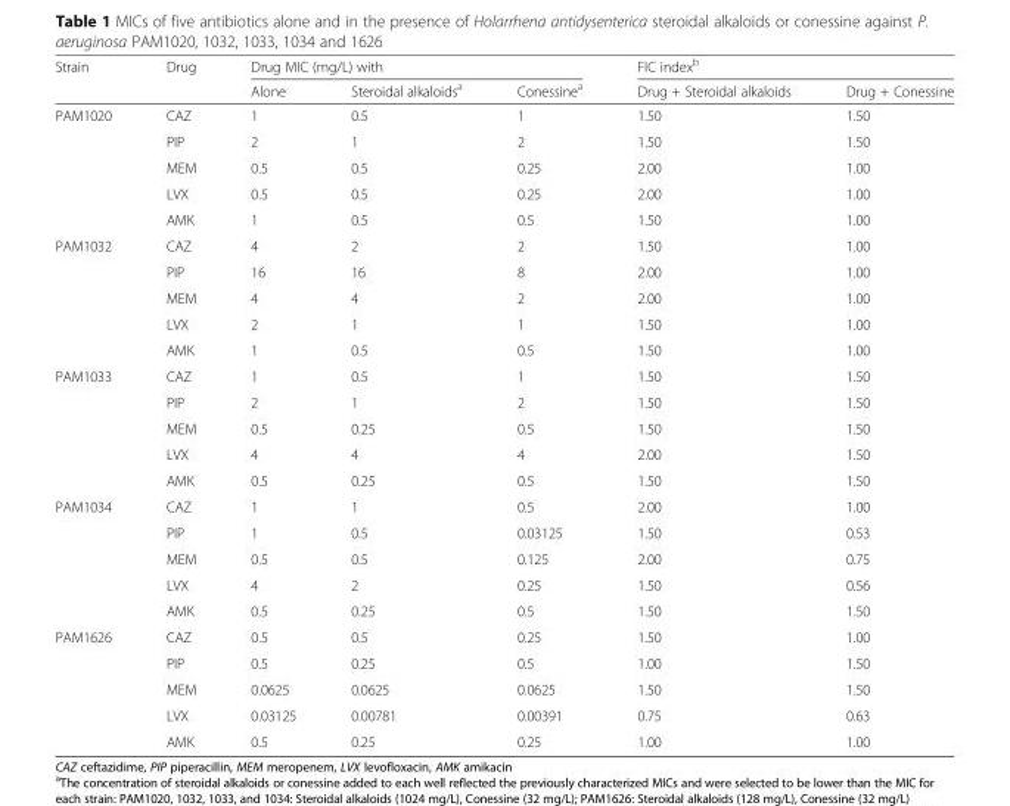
<table><thead><tr><td rowspan="2">Strain</td><td rowspan="2">Drug</td><td colspan="3">Drug MIC (mg/L) with</td><td colspan="2">FIC index<sup>b</sup></td></tr><tr><td>Alone</td><td>Steroidal alkaloids<sup>a</sup></td><td>Conessine<sup>a</sup></td><td>Drug + Steroidal alkaloids</td><td>Drug + Conessine</td></tr></thead><tbody><tr><td rowspan="5">PAM1020</td><td>CAZ</td><td>1</td><td>0.5</td><td>1</td><td>1.50</td><td>1.50</td></tr><tr><td>PIP</td><td>2</td><td>1</td><td>2</td><td>1.50</td><td>1.50</td></tr><tr><td>MEM</td><td>0.5</td><td>0.5</td><td>0.25</td><td>2.00</td><td>1.00</td></tr><tr><td>LVX</td><td>0.5</td><td>0.5</td><td>0.25</td><td>2.00</td><td>1.00</td></tr><tr><td>AMK</td><td>1</td><td>0.5</td><td>0.5</td><td>1.50</td><td>1.00</td></tr><tr><td rowspan="5">PAM1032</td><td>CAZ</td><td>4</td><td>2</td><td>2</td><td>1.50</td><td>1.00</td></tr><tr><td>PIP</td><td>16</td><td>16</td><td>8</td><td>2.00</td><td>1.00</td></tr><tr><td>MEM</td><td>4</td><td>4</td><td>2</td><td>2.00</td><td>1.00</td></tr><tr><td>LVX</td><td>2</td><td>1</td><td>1</td><td>1.50</td><td>1.00</td></tr><tr><td>AMK</td><td>1</td><td>0.5</td><td>0.5</td><td>1.50</td><td>1.00</td></tr><tr><td rowspan="5">PAM1033</td><td>CAZ</td><td>1</td><td>0.5</td><td>1</td><td>1.50</td><td>1.50</td></tr><tr><td>PIP</td><td>2</td><td>1</td><td>2</td><td>1.50</td><td>1.50</td></tr><tr><td>MEM</td><td>0.5</td><td>0.25</td><td>0.5</td><td>1.50</td><td>1.50</td></tr><tr><td>LVX</td><td>4</td><td>4</td><td>4</td><td>2.00</td><td>1.50</td></tr><tr><td>AMK</td><td>0.5</td><td>0.25</td><td>0.5</td><td>1.50</td><td>1.50</td></tr><tr><td rowspan="5">PAM1034</td><td>CAZ</td><td>1</td><td>1</td><td>0.5</td><td>2.00</td><td>1.00</td></tr><tr><td>PIP</td><td>1</td><td>0.5</td><td>0.03125</td><td>1.50</td><td>0.53</td></tr><tr><td>MEM</td><td>0.5</td><td>0.5</td><td>0.125</td><td>2.00</td><td>0.75</td></tr><tr><td>LVX</td><td>4</td><td>2</td><td>0.25</td><td>1.50</td><td>0.56</td></tr><tr><td>AMK</td><td>0.5</td><td>0.25</td><td>0.5</td><td>1.50</td><td>1.50</td></tr><tr><td rowspan="5">PAM1626</td><td>CAZ</td><td>0.5</td><td>0.5</td><td>0.25</td><td>1.50</td><td>1.00</td></tr><tr><td>PIP</td><td>0.5</td><td>0.25</td><td>0.5</td><td>1.00</td><td>1.50</td></tr><tr><td>MEM</td><td>0.0625</td><td>0.0625</td><td>0.0625</td><td>1.50</td><td>1.50</td></tr><tr><td>LVX</td><td>0.03125</td><td>0.00781</td><td>0.00391</td><td>0.75</td><td>0.63</td></tr><tr><td>AMK</td><td>0.5</td><td>0.25</td><td>0.25</td><td>1.00</td><td>1.00</td></tr></tbody></table>